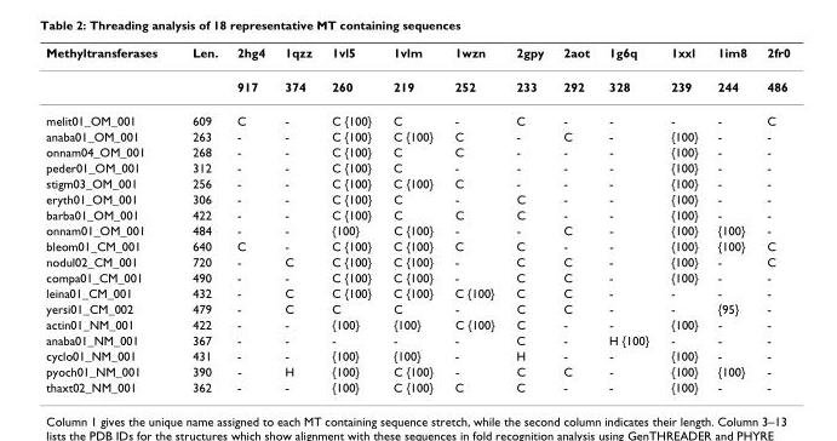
<table><thead><tr><td>Methyltransferases</td><td>Len.</td><td>2hg4</td><td>1qzz</td><td>1vl5</td><td>1vlm</td><td>1wzn</td><td>2gpy</td><td>2aot</td><td>1g6q</td><td>1xxl</td><td>1im8</td><td>2fr0</td></tr></thead><tbody><tr><td></td><td></td><td>917</td><td>374</td><td>260</td><td>219</td><td>252</td><td>233</td><td>292</td><td>328</td><td>239</td><td>244</td><td>486</td></tr><tr><td>melit01_OM_001</td><td>609</td><td>C</td><td>-</td><td>C {100}</td><td>C</td><td>-</td><td>C</td><td>-</td><td>-</td><td>-</td><td>-</td><td>C</td></tr><tr><td>anaba01_OM_001</td><td>263</td><td>-</td><td>-</td><td>C {100}</td><td>C {100}</td><td>C</td><td>-</td><td>C</td><td>-</td><td>{100}</td><td>-</td><td>-</td></tr><tr><td>onnam04_OM_001</td><td>268</td><td>-</td><td>-</td><td>C {100}</td><td>C</td><td>C</td><td>-</td><td>-</td><td>-</td><td>{100}</td><td>-</td><td>-</td></tr><tr><td>peder01_OM_001</td><td>312</td><td>-</td><td>-</td><td>C {100}</td><td>C</td><td>-</td><td>-</td><td>-</td><td>-</td><td>{100}</td><td>-</td><td>-</td></tr><tr><td>stigm03_OM_001</td><td>256</td><td>-</td><td>-</td><td>C {100}</td><td>C {100}</td><td>C</td><td>-</td><td>-</td><td>-</td><td>{100}</td><td>-</td><td>-</td></tr><tr><td>eryth01_OM_001</td><td>306</td><td>-</td><td>-</td><td>C {100}</td><td>C</td><td>-</td><td>C</td><td>-</td><td>-</td><td>{100}</td><td>-</td><td>-</td></tr><tr><td>barba01_OM_001</td><td>422</td><td>-</td><td>-</td><td>C {100}</td><td>C</td><td>C</td><td>C</td><td>-</td><td>-</td><td>{100}</td><td>-</td><td>-</td></tr><tr><td>onnam01_OM_001</td><td>484</td><td>-</td><td>-</td><td>{100}</td><td>C {100}</td><td>-</td><td>-</td><td>C</td><td>-</td><td>{100}</td><td>{100}</td><td>-</td></tr><tr><td>bleom01_CM_001</td><td>640</td><td>C</td><td>-</td><td>C {100}</td><td>C {100}</td><td>C</td><td>C</td><td>-</td><td>-</td><td>{100}</td><td>{100}</td><td>C</td></tr><tr><td>nodul02_CM_001</td><td>720</td><td>-</td><td>C</td><td>C {100}</td><td>C {100}</td><td>-</td><td>C</td><td>C</td><td>-</td><td>{100}</td><td>-</td><td>C</td></tr><tr><td>compa01_CM_001</td><td>490</td><td>-</td><td>-</td><td>C {100}</td><td>C {100}</td><td>-</td><td>C</td><td>C</td><td>-</td><td>{100}</td><td>-</td><td>-</td></tr><tr><td>leina01_CM_001</td><td>432</td><td>-</td><td>C</td><td>C {100}</td><td>C {100}</td><td>C {100}</td><td>C</td><td>C</td><td>-</td><td>-</td><td>-</td><td>-</td></tr><tr><td>yersi01_CM_002</td><td>479</td><td>-</td><td>C</td><td>C</td><td>C</td><td>-</td><td>C</td><td>C</td><td>-</td><td>-</td><td>{95}</td><td>-</td></tr><tr><td>actin01_NM_001</td><td>422</td><td>-</td><td>-</td><td>{100}</td><td>{100}</td><td>C {100}</td><td>C</td><td>-</td><td>-</td><td>{100}</td><td>-</td><td>-</td></tr><tr><td>anaba01_NM_001</td><td>367</td><td>-</td><td>-</td><td>-</td><td>-</td><td>-</td><td>C</td><td>-</td><td>H {100}</td><td>-</td><td>-</td><td>-</td></tr><tr><td>cyclo01_NM_001</td><td>431</td><td>-</td><td>-</td><td>{100}</td><td>{100}</td><td>-</td><td>H</td><td>-</td><td>-</td><td>{100}</td><td>-</td><td>-</td></tr><tr><td>pyoch01_NM_001</td><td>390</td><td>-</td><td>H</td><td>{100}</td><td>C {100}</td><td>-</td><td>C</td><td>C</td><td>-</td><td>{100}</td><td>{100}</td><td>-</td></tr><tr><td>thaxt02_NM_001</td><td>362</td><td>-</td><td>-</td><td>{100}</td><td>C {100}</td><td>C</td><td>C</td><td>-</td><td>-</td><td>{100}</td><td>-</td><td>-</td></tr></tbody></table>